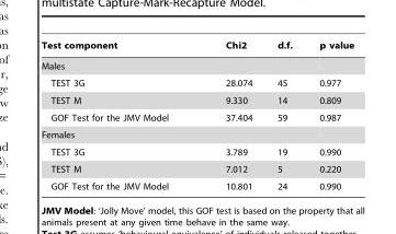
<table><thead><tr><td>Test component</td><td>Chi2</td><td>d.f.</td><td>p value</td></tr></thead><tbody><tr><td colspan="4">Males</td></tr><tr><td>TEST 3G</td><td>28.074</td><td>45</td><td>0.977</td></tr><tr><td>TEST M</td><td>9.330</td><td>14</td><td>0.809</td></tr><tr><td>GOF Test for the JMV Model</td><td>37.404</td><td>59</td><td>0.987</td></tr><tr><td colspan="4">Females</td></tr><tr><td>TEST 3G</td><td>3.789</td><td>19</td><td>0.990</td></tr><tr><td>TEST M</td><td>7.012</td><td>5</td><td>0.220</td></tr><tr><td>GOF Test for the JMV Model</td><td>10.801</td><td>24</td><td>0.990</td></tr></tbody></table>